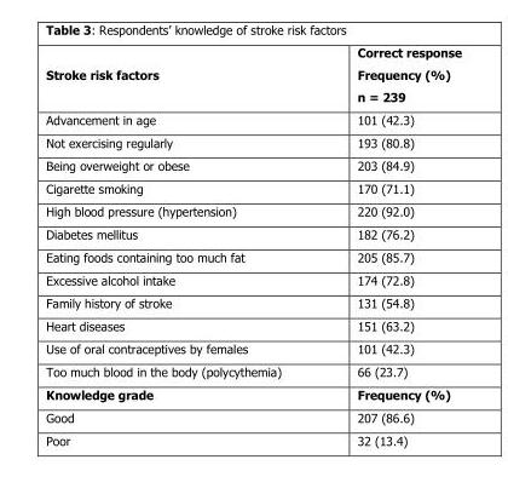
<table><thead><tr><td>Stroke risk factors</td><td>Correct response Frequency (%) n = 239</td></tr></thead><tbody><tr><td>Advancement in age</td><td>101 (42.3)</td></tr><tr><td>Not exercising regularly</td><td>193 (80.8)</td></tr><tr><td>Being overweight or obese</td><td>203 (84.9)</td></tr><tr><td>Cigarette smoking</td><td>170 (71.1)</td></tr><tr><td>High blood pressure (hypertension)</td><td>220 (92.0)</td></tr><tr><td>Diabetes mellitus</td><td>182 (76.2)</td></tr><tr><td>Eating foods containing too much fat</td><td>205 (85.7)</td></tr><tr><td>Excessive alcohol intake</td><td>174 (72.8)</td></tr><tr><td>Family history of stroke</td><td>131 (54.8)</td></tr><tr><td>Heart diseases</td><td>151 (63.2)</td></tr><tr><td>Use of oral contraceptives by females</td><td>101 (42.3)</td></tr><tr><td>Too much blood in the body (polycythemia)</td><td>66 (23.7)</td></tr><tr><td>Knowledge grade</td><td>Frequency (%)</td></tr><tr><td>Good</td><td>207 (86.6)</td></tr><tr><td>Poor</td><td>32 (13.4)</td></tr></tbody></table>